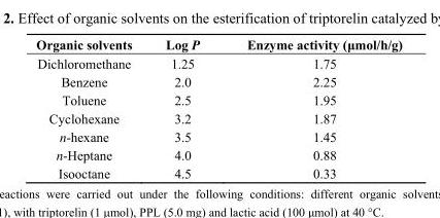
<table><thead><tr><td>Organic solvents</td><td>Log P</td><td>Enzyme activity (μmol/h/g)</td></tr></thead><tbody><tr><td>Dichloromethane</td><td>1.25</td><td>1.75</td></tr><tr><td>Benzene</td><td>2.0</td><td>2.25</td></tr><tr><td>Toluene</td><td>2.5</td><td>1.95</td></tr><tr><td>Cyclohexane</td><td>3.2</td><td>1.87</td></tr><tr><td>n-hexane</td><td>3.5</td><td>1.45</td></tr><tr><td>n-Heptane</td><td>4.0</td><td>0.88</td></tr><tr><td>Isooctane</td><td>4.5</td><td>0.33</td></tr></tbody></table>